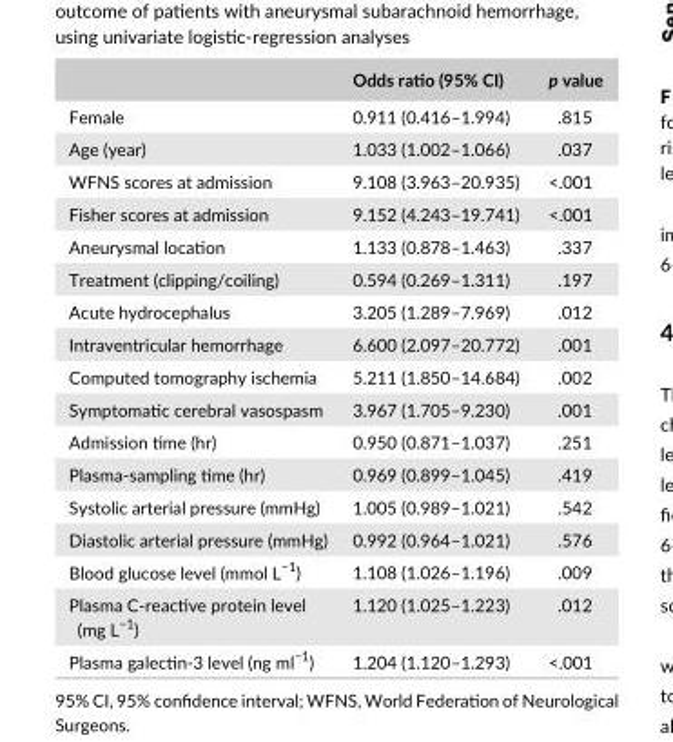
<table><thead><tr><td></td><td>Odds ratio (95% CI)</td><td>p value</td></tr></thead><tbody><tr><td>Female</td><td>0.911 (0.416–1.994)</td><td>.815</td></tr><tr><td>Age (year)</td><td>1.033 (1.002–1.066)</td><td>.037</td></tr><tr><td>WFNS scores at admission</td><td>9.108 (3.963–20.935)</td><td>&lt;.001</td></tr><tr><td>Fisher scores at admission</td><td>9.152 (4.243–19.741)</td><td>&lt;.001</td></tr><tr><td>Aneurysmal location</td><td>1.133 (0.878–1.463)</td><td>.337</td></tr><tr><td>Treatment (clipping/coiling)</td><td>0.594 (0.269–1.311)</td><td>.197</td></tr><tr><td>Acute hydrocephalus</td><td>3.205 (1.289–7.969)</td><td>.012</td></tr><tr><td>Intraventricular hemorrhage</td><td>6.600 (2.097–20.772)</td><td>.001</td></tr><tr><td>Computed tomography ischemia</td><td>5.211 (1.850–14.684)</td><td>.002</td></tr><tr><td>Symptomatic cerebral vasospasm</td><td>3.967 (1.705–9.230)</td><td>.001</td></tr><tr><td>Admission time (hr)</td><td>0.950 (0.871–1.037)</td><td>.251</td></tr><tr><td>Plasma- sampling time (hr)</td><td>0.969 (0.899–1.045)</td><td>.419</td></tr><tr><td>Systolic arterial pressure (mmHg)</td><td>1.005 (0.989–1.021)</td><td>.542</td></tr><tr><td>Diastolic arterial pressure (mmHg)</td><td>0.992 (0.964–1.021)</td><td>.576</td></tr><tr><td>Blood glucose level (mmol L<sup>−1</sup>)</td><td>1.108 (1.026–1.196)</td><td>.009</td></tr><tr><td>Plasma C- reactive protein level (mg L<sup>−1</sup>)</td><td>1.120 (1.025–1.223)</td><td>.012</td></tr><tr><td>Plasma galectin- 3 level (ng ml<sup>−1</sup>)</td><td>1.204 (1.120–1.293)</td><td>&lt;.001</td></tr></tbody></table>